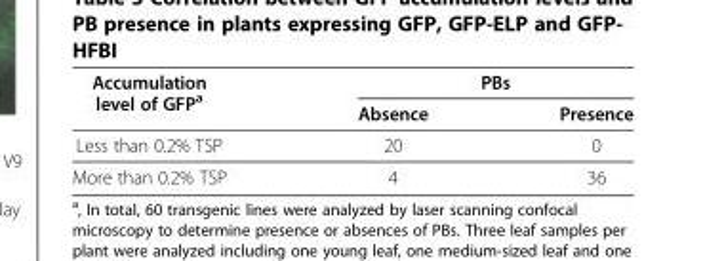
<table><thead><tr><td rowspan="2">Accumulation level of GFP<sup>a</sup></td><td colspan="2">PBs</td></tr><tr><td>Absence</td><td>Presence</td></tr></thead><tbody><tr><td>Less than 0.2% TSP</td><td>20</td><td>0</td></tr><tr><td>More than 0.2% TSP</td><td>4</td><td>36</td></tr></tbody></table>